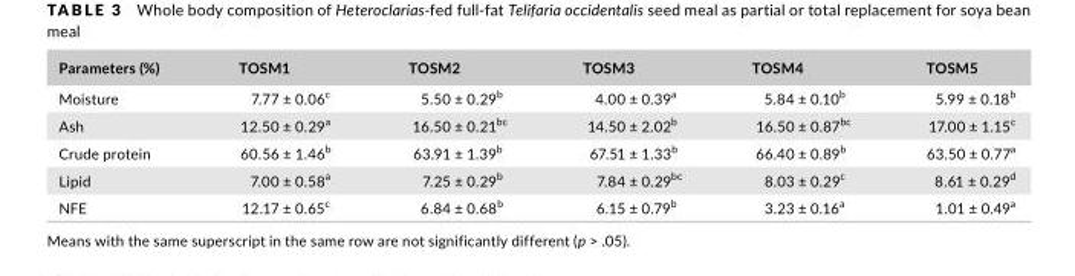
<table><thead><tr><td>Parameters (%)</td><td>TOSM1</td><td>TOSM2</td><td>TOSM3</td><td>TOSM4</td><td>TOSM5</td></tr></thead><tbody><tr><td>Moisture</td><td>7.77 ± 0.06<sup>c</sup></td><td>5.50 ± 0.29<sup>b</sup></td><td>4.00 ± 0.39<sup>a</sup></td><td>5.84 ± 0.10<sup>b</sup></td><td>5.99 ± 0.18<sup>b</sup></td></tr><tr><td>Ash</td><td>12.50 ± 0.29<sup>a</sup></td><td>16.50 ± 0.21<sup>bc</sup></td><td>14.50 ± 2.02<sup>b</sup></td><td>16.50 ± 0.87<sup>bc</sup></td><td>17.00 ± 1.15<sup>c</sup></td></tr><tr><td>Crude protein</td><td>60.56 ± 1.46<sup>b</sup></td><td>63.91 ± 1.39<sup>b</sup></td><td>67.51 ± 1.33<sup>b</sup></td><td>66.40 ± 0.89<sup>b</sup></td><td>63.50 ± 0.77<sup>a</sup></td></tr><tr><td>Lipid</td><td>7.00 ± 0.58<sup>a</sup></td><td>7.25 ± 0.29<sup>b</sup></td><td>7.84 ± 0.29<sup>bc</sup></td><td>8.03 ± 0.29<sup>c</sup></td><td>8.61 ± 0.29<sup>d</sup></td></tr><tr><td>NFE</td><td>12.17 ± 0.65<sup>c</sup></td><td>6.84 ± 0.68<sup>b</sup></td><td>6.15 ± 0.79<sup>b</sup></td><td>3.23 ± 0.16<sup>a</sup></td><td>1.01 ± 0.49<sup>a</sup></td></tr></tbody></table>